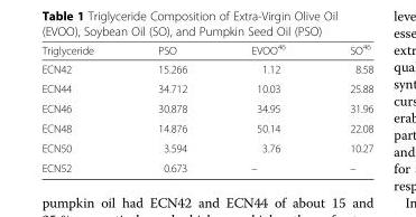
<table><thead><tr><td>Triglyceride</td><td>PSO</td><td>EVOO46</td><td>SO46</td></tr></thead><tbody><tr><td>ECN42</td><td>15.266</td><td>1.12</td><td>8.58</td></tr><tr><td>ECN44</td><td>34.712</td><td>10.03</td><td>25.88</td></tr><tr><td>ECN46</td><td>30.878</td><td>34.95</td><td>31.96</td></tr><tr><td>ECN48</td><td>14.876</td><td>50.14</td><td>22.08</td></tr><tr><td>ECN50</td><td>3.594</td><td>3.76</td><td>10.27</td></tr><tr><td>ECN52</td><td>0.673</td><td>–</td><td>–</td></tr></tbody></table>